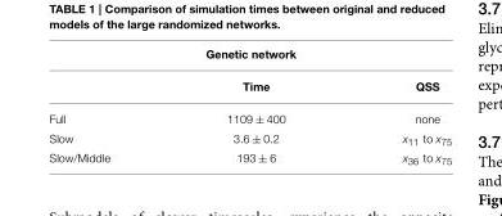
<table><thead><tr><td colspan="3">Genetic network</td></tr><tr><td></td><td>Time</td><td>QSS</td></tr></thead><tbody><tr><td>Full</td><td>1109 ± 400</td><td>none</td></tr><tr><td>Slow</td><td>3.6 ± 0.2</td><td>x<sub>11</sub> to x<sub>75</sub></td></tr><tr><td>Slow/Middle</td><td>193 ± 6</td><td>x<sub>36</sub> to x<sub>75</sub></td></tr></tbody></table>